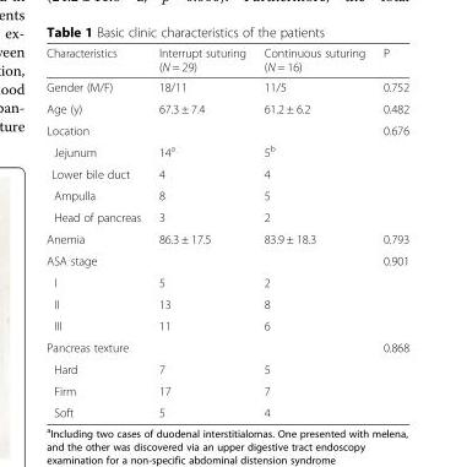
<table><thead><tr><td>Characteristics</td><td>Interrupt suturing (N = 29)</td><td>Continuous suturing (N = 16)</td><td>P</td></tr></thead><tbody><tr><td>Gender (M/F)</td><td>18/11</td><td>11/5</td><td>0.752</td></tr><tr><td>Age (y)</td><td>67.3 ± 7.4</td><td>61.2 ± 6.2</td><td>0.482</td></tr><tr><td>Location</td><td></td><td></td><td>0.676</td></tr><tr><td>Jejunum</td><td>14<sup>a</sup></td><td>5<sup>b</sup></td><td></td></tr><tr><td>Lower bile duct</td><td>4</td><td>4</td><td></td></tr><tr><td>Ampulla</td><td>8</td><td>5</td><td></td></tr><tr><td>Head of pancreas</td><td>3</td><td>2</td><td></td></tr><tr><td>Anemia</td><td>86.3 ± 17.5</td><td>83.9 ± 18.3</td><td>0.793</td></tr><tr><td>ASA stage</td><td></td><td></td><td>0.901</td></tr><tr><td>I</td><td>5</td><td>2</td><td></td></tr><tr><td>II</td><td>13</td><td>8</td><td></td></tr><tr><td>III</td><td>11</td><td>6</td><td></td></tr><tr><td>Pancreas texture</td><td></td><td></td><td>0.868</td></tr><tr><td>Hard</td><td>7</td><td>5</td><td></td></tr><tr><td>Firm</td><td>17</td><td>7</td><td></td></tr><tr><td>Soft</td><td>5</td><td>4</td><td></td></tr></tbody></table>